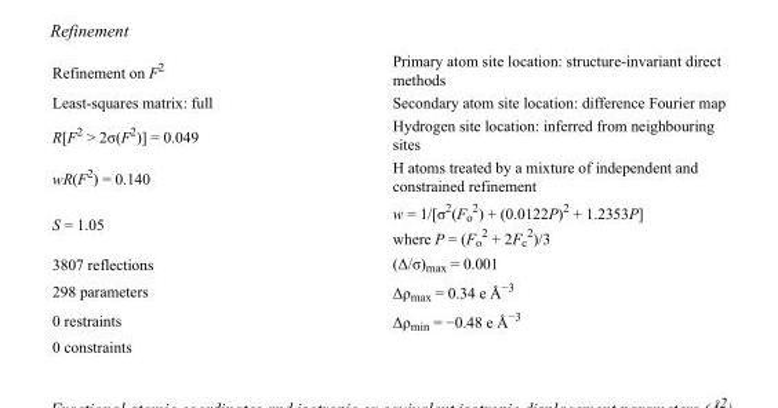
<table><tbody><tr><td>Refinement on F<sup>2</sup></td><td>Primary atom site location: structure-invariant direct methods</td></tr><tr><td>Least-squares matrix: full</td><td>Secondary atom site location: difference Fourier map</td></tr><tr><td>R[F<sup>2</sup> &gt; 2σ(F<sup>2</sup>)] = 0.049</td><td>Hydrogen site location: inferred from neighbouring sites</td></tr><tr><td>wR(F<sup>2</sup>) = 0.140</td><td>H atoms treated by a mixture of independent and constrained refinement</td></tr><tr><td>S = 1.05</td><td>w = 1/[σ<sup>2</sup>(F<sub>o</sub> <sup>2</sup>) + (0.0122P)<sup>2</sup> + 1.2353P] where P = (F<sub>o</sub> <sup>2</sup> + 2F<sub>c</sub> <sup>2</sup>)/3</td></tr><tr><td>3807 reflections</td><td>(Δ/σ)<sub>max</sub> = 0.001</td></tr><tr><td>298 parameters</td><td>Δρ<sub>max</sub> = 0.34 e Å<sup>−3</sup></td></tr><tr><td>0 restraints</td><td>Δρ<sub>min</sub> = −0.48 e Å<sup>−3</sup></td></tr><tr><td>0 constraints</td><td></td></tr></tbody></table>